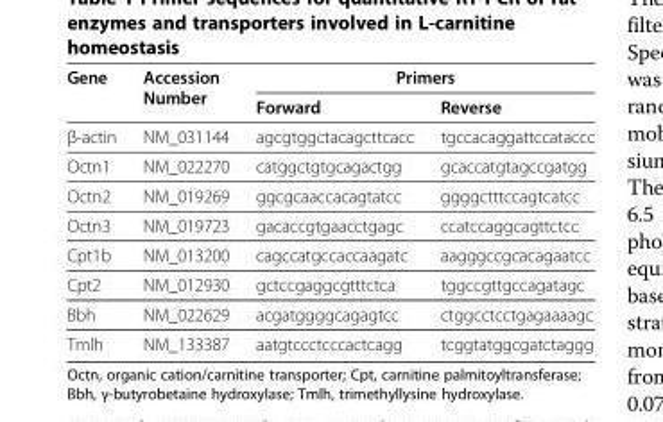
<table><thead><tr><td rowspan="2">Gene</td><td rowspan="2">Accession Number</td><td colspan="2">Primers</td></tr><tr><td>Forward</td><td>Reverse</td></tr></thead><tbody><tr><td>β-actin</td><td>NM_031144</td><td>agcgtggctacagcttcacc</td><td>tgccacaggattccataccc</td></tr><tr><td>Octn1</td><td>NM_022270</td><td>catggctgtgcagactgg</td><td>gcaccatgtagccgatgg</td></tr><tr><td>Octn2</td><td>NM_019269</td><td>ggcgcaaccacagtatcc</td><td>ggggctttccagtcatcc</td></tr><tr><td>Octn3</td><td>NM_019723</td><td>gacaccgtgaacctgagc</td><td>ccatccaggcagttctcc</td></tr><tr><td>Cpt1b</td><td>NM_013200</td><td>cagccatgccaccaagatc</td><td>aagggccgcacagaatcc</td></tr><tr><td>Cpt2</td><td>NM_012930</td><td>gctccgaggcgtttctca</td><td>tggccgttgccagatagc</td></tr><tr><td>Bbh</td><td>NM_022629</td><td>acgatggggcagagtcc</td><td>ctggcctcctgagaaaagc</td></tr><tr><td>Tmlh</td><td>NM_133387</td><td>aatgtccctcccactcagg</td><td>tcggtatggcgatctaggg</td></tr></tbody></table>